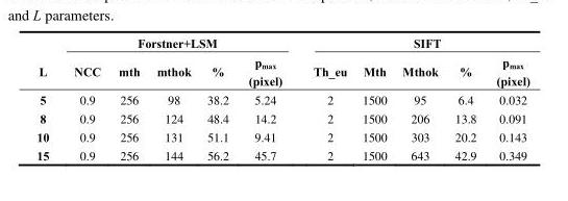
<table><thead><tr><td rowspan="2">L</td><td colspan="5">Forstner+LSM</td><td colspan="5">SIFT</td></tr><tr><td>NCC</td><td>mth</td><td>mthok</td><td>%</td><td>p<sub>max</sub> (pixel)</td><td>Th_eu</td><td>Mth</td><td>Mthok</td><td>%</td><td>p<sub>max</sub> (pixel)</td></tr></thead><tbody><tr><td>5</td><td>0.9</td><td>256</td><td>98</td><td>38.2</td><td>5.24</td><td>2</td><td>1500</td><td>95</td><td>6.4</td><td>0.032</td></tr><tr><td>8</td><td>0.9</td><td>256</td><td>124</td><td>48.4</td><td>14.2</td><td>2</td><td>1500</td><td>206</td><td>13.8</td><td>0.091</td></tr><tr><td>10</td><td>0.9</td><td>256</td><td>131</td><td>51.1</td><td>9.41</td><td>2</td><td>1500</td><td>303</td><td>20.2</td><td>0.143</td></tr><tr><td>15</td><td>0.9</td><td>256</td><td>144</td><td>56.2</td><td>45.7</td><td>2</td><td>1500</td><td>643</td><td>42.9</td><td>0.349</td></tr></tbody></table>